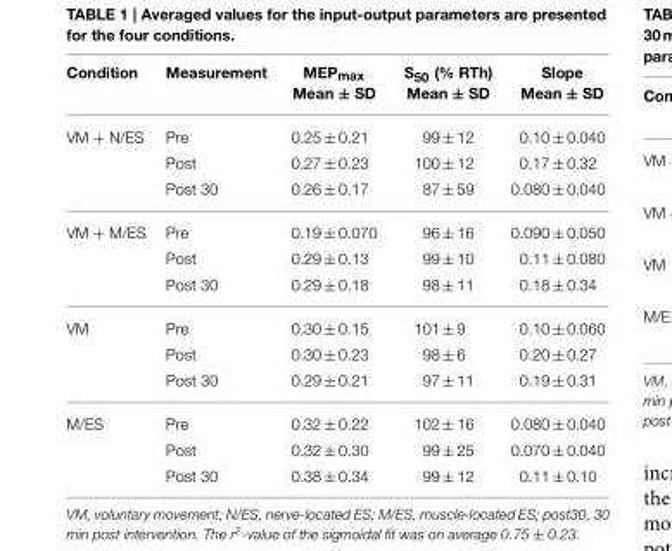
<table><thead><tr><td>Condition</td><td>Measurement</td><td>MEP<sub>max</sub> Mean ± SD</td><td>S<sub>50</sub> (% RTh) Mean ± SD</td><td>Slope Mean ± SD</td></tr></thead><tbody><tr><td rowspan="3">VM + N/ES</td><td>Pre</td><td>0.25 ± 0.21</td><td>99 ± 12</td><td>0.10 ± 0.040</td></tr><tr><td>Post</td><td>0.27 ± 0.23</td><td>100 ± 12</td><td>0.17 ± 0.32</td></tr><tr><td>Post 30</td><td>0.26 ± 0.17</td><td>87 ± 59</td><td>0.080 ± 0.040</td></tr><tr><td rowspan="3">VM + M/ES</td><td>Pre</td><td>0.19 ± 0.070</td><td>96 ± 16</td><td>0.090 ± 0.050</td></tr><tr><td>Post</td><td>0.29 ± 0.13</td><td>99 ± 10</td><td>0.11 ± 0.080</td></tr><tr><td>Post 30</td><td>0.29 ± 0.18</td><td>98 ± 11</td><td>0.18 ± 0.34</td></tr><tr><td rowspan="3">VM</td><td>Pre</td><td>0.30 ± 0.15</td><td>101 ± 9</td><td>0.10 ± 0.060</td></tr><tr><td>Post</td><td>0.30 ± 0.23</td><td>98 ± 6</td><td>0.20 ± 0.27</td></tr><tr><td>Post 30</td><td>0.29 ± 0.21</td><td>97 ± 11</td><td>0.19 ± 0.31</td></tr><tr><td rowspan="3">M/ES</td><td>Pre</td><td>0.32 ± 0.22</td><td>102 ± 16</td><td>0.080 ± 0.040</td></tr><tr><td>Post</td><td>0.32 ± 0.30</td><td>99 ± 25</td><td>0.070 ± 0.040</td></tr><tr><td>Post 30</td><td>0.38 ± 0.34</td><td>99 ± 12</td><td>0.11 ± 0.10</td></tr></tbody></table>